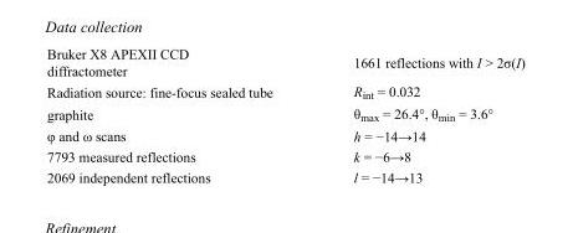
<table><tbody><tr><td>Bruker X8 APEXII CCD diffractometer</td><td>1661 reflections with I &gt; 2σ(I)</td></tr><tr><td>Radiation source: fine-focus sealed tube</td><td>R<sub>int</sub> = 0.032</td></tr><tr><td>graphite</td><td>θ<sub>max</sub> = 26.4°, θ<sub>min</sub> = 3.6°</td></tr><tr><td>φ and ω scans</td><td>h = −14→14</td></tr><tr><td>7793 measured reflections</td><td>k = −6→8</td></tr><tr><td>2069 independent reflections</td><td>l = −14→13</td></tr></tbody></table>